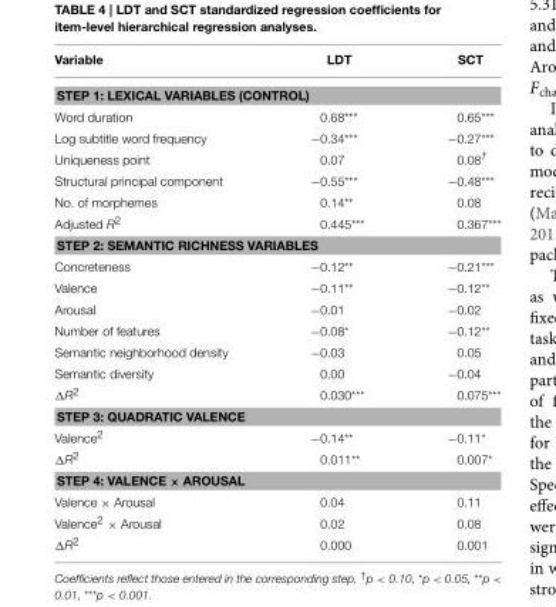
<table><thead><tr><td>Variable</td><td>LDT</td><td>SCT</td></tr></thead><tbody><tr><td colspan="3">STEP 1: LEXICAL VARIABLES (CONTROL)</td></tr><tr><td>Word duration</td><td>0.68***</td><td>0.65***</td></tr><tr><td>Log subtitle word frequency</td><td>−0.34***</td><td>−0.27***</td></tr><tr><td>Uniqueness point</td><td>0.07</td><td>0.08<sup>†</sup></td></tr><tr><td>Structural principal component</td><td>−0.55***</td><td>−0.48***</td></tr><tr><td>No. of morphemes</td><td>0.14**</td><td>0.08</td></tr><tr><td>Adjusted R<sup>2</sup></td><td>0.445***</td><td>0.367***</td></tr><tr><td colspan="3">STEP 2: SEMANTIC RICHNESS VARIABLES</td></tr><tr><td>Concreteness</td><td>−0.12**</td><td>−0.21***</td></tr><tr><td>Valence</td><td>−0.11**</td><td>−0.12**</td></tr><tr><td>Arousal</td><td>−0.01</td><td>−0.02</td></tr><tr><td>Number of features</td><td>−0.08*</td><td>−0.12**</td></tr><tr><td>Semantic neighborhood density</td><td>−0.03</td><td>0.05</td></tr><tr><td>Semantic diversity</td><td>0.00</td><td>−0.04</td></tr><tr><td>ΔR<sup>2</sup></td><td>0.030***</td><td>0.075***</td></tr><tr><td colspan="3">STEP 3: QUADRATIC VALENCE</td></tr><tr><td>Valence<sup>2</sup></td><td>−0.14**</td><td>−0.11*</td></tr><tr><td>ΔR<sup>2</sup></td><td>0.011**</td><td>0.007*</td></tr><tr><td colspan="3">STEP 4: VALENCE × AROUSAL</td></tr><tr><td>Valence × Arousal</td><td>0.04</td><td>0.11</td></tr><tr><td>Valence<sup>2</sup> × Arousal</td><td>0.02</td><td>0.08</td></tr><tr><td>ΔR<sup>2</sup></td><td>0.000</td><td>0.001</td></tr></tbody></table>